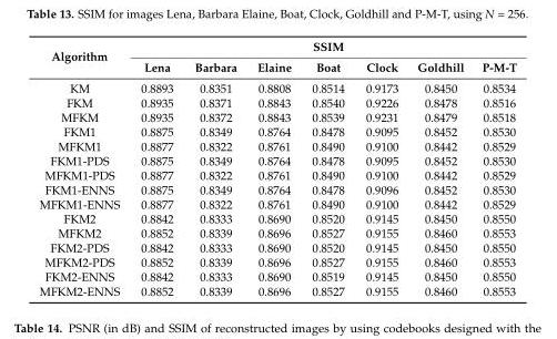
<table><thead><tr><td rowspan="2">Algorithm</td><td colspan="7">SSIM</td></tr><tr><td>Lena</td><td>Barbara</td><td>Elaine</td><td>Boat</td><td>Clock</td><td>Goldhill</td><td>P-M-T</td></tr></thead><tbody><tr><td>KM</td><td>0.8893</td><td>0.8351</td><td>0.8808</td><td>0.8514</td><td>0.9173</td><td>0.8450</td><td>0.8534</td></tr><tr><td>FKM</td><td>0.8935</td><td>0.8371</td><td>0.8843</td><td>0.8540</td><td>0.9226</td><td>0.8478</td><td>0.8516</td></tr><tr><td>MFKM</td><td>0.8935</td><td>0.8372</td><td>0.8843</td><td>0.8539</td><td>0.9231</td><td>0.8479</td><td>0.8518</td></tr><tr><td>FKM1</td><td>0.8875</td><td>0.8349</td><td>0.8764</td><td>0.8478</td><td>0.9095</td><td>0.8452</td><td>0.8530</td></tr><tr><td>MFKM1</td><td>0.8877</td><td>0.8322</td><td>0.8761</td><td>0.8490</td><td>0.9100</td><td>0.8442</td><td>0.8529</td></tr><tr><td>FKM1-PDS</td><td>0.8875</td><td>0.8349</td><td>0.8764</td><td>0.8478</td><td>0.9095</td><td>0.8452</td><td>0.8530</td></tr><tr><td>MFKM1-PDS</td><td>0.8877</td><td>0.8322</td><td>0.8761</td><td>0.8490</td><td>0.9100</td><td>0.8442</td><td>0.8529</td></tr><tr><td>FKM1-ENNS</td><td>0.8875</td><td>0.8349</td><td>0.8764</td><td>0.8478</td><td>0.9096</td><td>0.8452</td><td>0.8530</td></tr><tr><td>MFKM1-ENNS</td><td>0.8877</td><td>0.8322</td><td>0.8761</td><td>0.8490</td><td>0.9100</td><td>0.8442</td><td>0.8529</td></tr><tr><td>FKM2</td><td>0.8842</td><td>0.8333</td><td>0.8690</td><td>0.8520</td><td>0.9145</td><td>0.8450</td><td>0.8550</td></tr><tr><td>MFKM2</td><td>0.8852</td><td>0.8339</td><td>0.8696</td><td>0.8527</td><td>0.9155</td><td>0.8460</td><td>0.8553</td></tr><tr><td>FKM2-PDS</td><td>0.8842</td><td>0.8333</td><td>0.8690</td><td>0.8520</td><td>0.9145</td><td>0.8450</td><td>0.8550</td></tr><tr><td>MFKM2-PDS</td><td>0.8852</td><td>0.8339</td><td>0.8696</td><td>0.8527</td><td>0.9155</td><td>0.8460</td><td>0.8553</td></tr><tr><td>FKM2-ENNS</td><td>0.8842</td><td>0.8333</td><td>0.8690</td><td>0.8519</td><td>0.9145</td><td>0.8450</td><td>0.8550</td></tr><tr><td>MFKM2-ENNS</td><td>0.8852</td><td>0.8339</td><td>0.8696</td><td>0.8527</td><td>0.9155</td><td>0.8460</td><td>0.8553</td></tr></tbody></table>